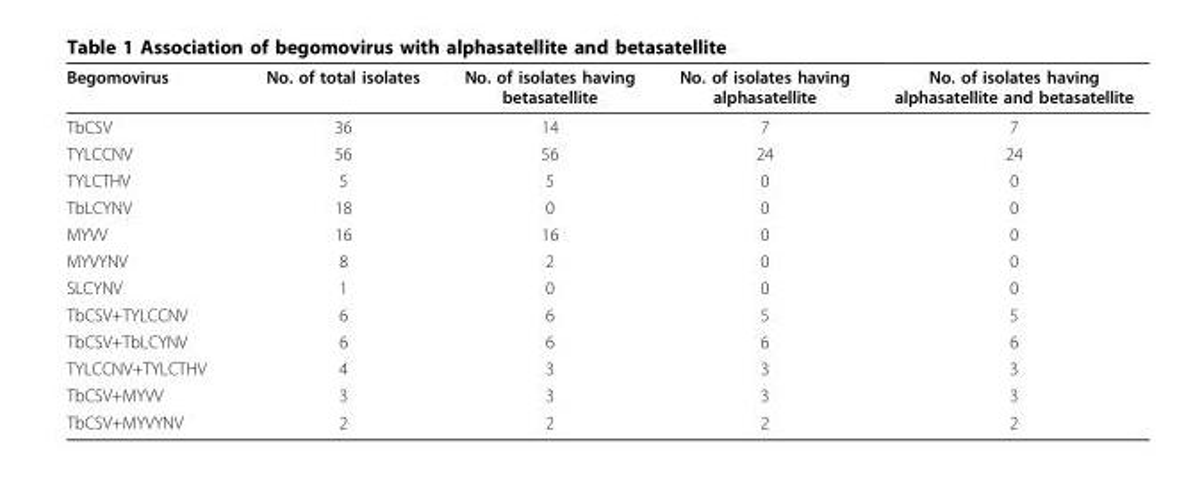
<table><thead><tr><td>Begomovirus</td><td>No. of total isolates</td><td>No. of isolates having betasatellite</td><td>No. of isolates having alphasatellite</td><td>No. of isolates having alphasatellite and betasatellite</td></tr></thead><tbody><tr><td>TbCSV</td><td>36</td><td>14</td><td>7</td><td>7</td></tr><tr><td>TYLCCNV</td><td>56</td><td>56</td><td>24</td><td>24</td></tr><tr><td>TYLCTHV</td><td>5</td><td>5</td><td>0</td><td>0</td></tr><tr><td>TbLCYNV</td><td>18</td><td>0</td><td>0</td><td>0</td></tr><tr><td>MYVV</td><td>16</td><td>16</td><td>0</td><td>0</td></tr><tr><td>MYVYNV</td><td>8</td><td>2</td><td>0</td><td>0</td></tr><tr><td>SLCYNV</td><td>1</td><td>0</td><td>0</td><td>0</td></tr><tr><td>TbCSV+TYLCCNV</td><td>6</td><td>6</td><td>5</td><td>5</td></tr><tr><td>TbCSV+TbLCYNV</td><td>6</td><td>6</td><td>6</td><td>6</td></tr><tr><td>TYLCCNV+TYLCTHV</td><td>4</td><td>3</td><td>3</td><td>3</td></tr><tr><td>TbCSV+MYVV</td><td>3</td><td>3</td><td>3</td><td>3</td></tr><tr><td>TbCSV+MYVYNV</td><td>2</td><td>2</td><td>2</td><td>2</td></tr></tbody></table>